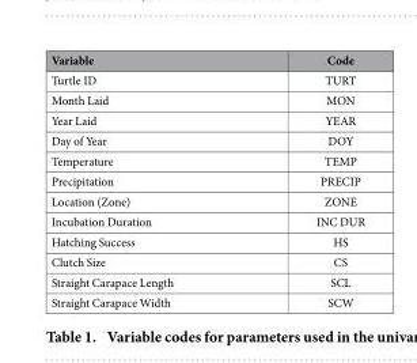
<table><thead><tr><td>Variable</td><td>Code</td></tr></thead><tbody><tr><td>Turtle ID</td><td>TURT</td></tr><tr><td>Month Laid</td><td>MON</td></tr><tr><td>Year Laid</td><td>YEAR</td></tr><tr><td>Day of Year</td><td>DOY</td></tr><tr><td>Temperature</td><td>TEMP</td></tr><tr><td>Precipitation</td><td>PRECIP</td></tr><tr><td>Location (Zone)</td><td>ZONE</td></tr><tr><td>Incubation Duration</td><td>INC DUR</td></tr><tr><td>Hatching Success</td><td>HS</td></tr><tr><td>Clutch Size</td><td>CS</td></tr><tr><td>Straight Carapace Length</td><td>SCL</td></tr><tr><td>Straight Carapace Width</td><td>SCW</td></tr></tbody></table>